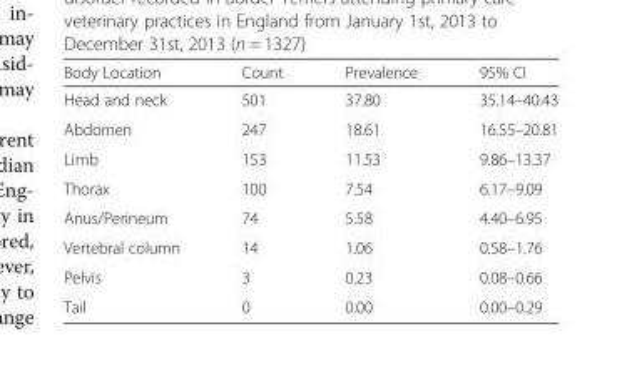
<table><thead><tr><td>Body Location</td><td>Count</td><td>Prevalence</td><td>95% CI</td></tr></thead><tbody><tr><td>Head and neck</td><td>501</td><td>37.80</td><td>35.14–40.43</td></tr><tr><td>Abdomen</td><td>247</td><td>18.61</td><td>16.55–20.81</td></tr><tr><td>Limb</td><td>153</td><td>11.53</td><td>9.86–13.37</td></tr><tr><td>Thorax</td><td>100</td><td>7.54</td><td>6.17–9.09</td></tr><tr><td>Anus/Perineum</td><td>74</td><td>5.58</td><td>4.40–6.95</td></tr><tr><td>Vertebral column</td><td>14</td><td>1.06</td><td>0.58–1.76</td></tr><tr><td>Pelvis</td><td>3</td><td>0.23</td><td>0.08–0.66</td></tr><tr><td>Tail</td><td>0</td><td>0.00</td><td>0.00–0.29</td></tr></tbody></table>